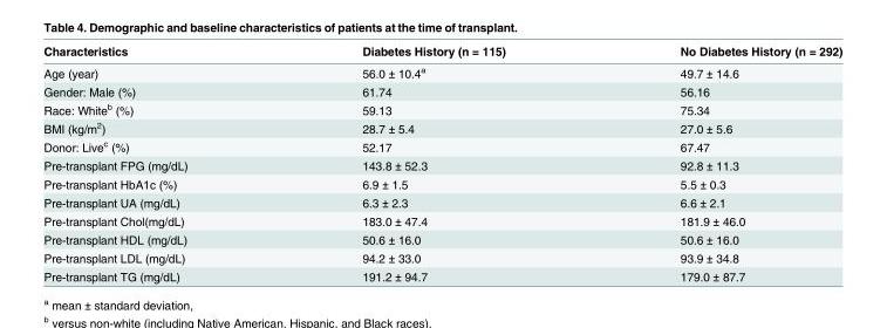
<table><thead><tr><td>Characteristics</td><td>Diabetes History (n = 115)</td><td>No Diabetes History (n = 292)</td></tr></thead><tbody><tr><td>Age (year)</td><td>56.0 ± 10.4<sup>a</sup></td><td>49.7 ± 14.6</td></tr><tr><td>Gender: Male (%)</td><td>61.74</td><td>56.16</td></tr><tr><td>Race: White<sup>b</sup> (%)</td><td>59.13</td><td>75.34</td></tr><tr><td>BMI (kg/m<sup>2</sup>)</td><td>28.7 ± 5.4</td><td>27.0 ± 5.6</td></tr><tr><td>Donor: Live<sup>c</sup> (%)</td><td>52.17</td><td>67.47</td></tr><tr><td>Pre-transplant FPG (mg/dL)</td><td>143.8 ± 52.3</td><td>92.8 ± 11.3</td></tr><tr><td>Pre-transplant HbA1c (%)</td><td>6.9 ± 1.5</td><td>5.5 ± 0.3</td></tr><tr><td>Pre-transplant UA (mg/dL)</td><td>6.3 ± 2.3</td><td>6.6 ± 2.1</td></tr><tr><td>Pre-transplant Chol(mg/dL)</td><td>183.0 ± 47.4</td><td>181.9 ± 46.0</td></tr><tr><td>Pre-transplant HDL (mg/dL)</td><td>50.6 ± 16.0</td><td>50.6 ± 16.0</td></tr><tr><td>Pre-transplant LDL (mg/dL)</td><td>94.2 ± 33.0</td><td>93.9 ± 34.8</td></tr><tr><td>Pre-transplant TG (mg/dL)</td><td>191.2 ± 94.7</td><td>179.0 ± 87.7</td></tr></tbody></table>